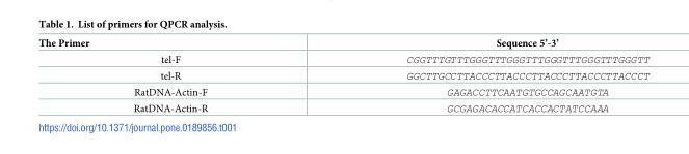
<table><thead><tr><td>The Primer</td><td>Sequence 5’-3’</td></tr></thead><tbody><tr><td>tel-F</td><td>CGGTTTGTTTGGGTTTGGGTTTGGGTTTGGGTTTGGGTT</td></tr><tr><td>tel-R</td><td>GGCTTGCCTTACCCTTACCCTTACCCTTACCCTTACCCT</td></tr><tr><td>RatDNA-Actin-F</td><td>GAGACCTTCAATGTGCCAGCAATGTA</td></tr><tr><td>RatDNA-Actin-R</td><td>GCGAGACACCATCACCACTATCCAAA</td></tr></tbody></table>